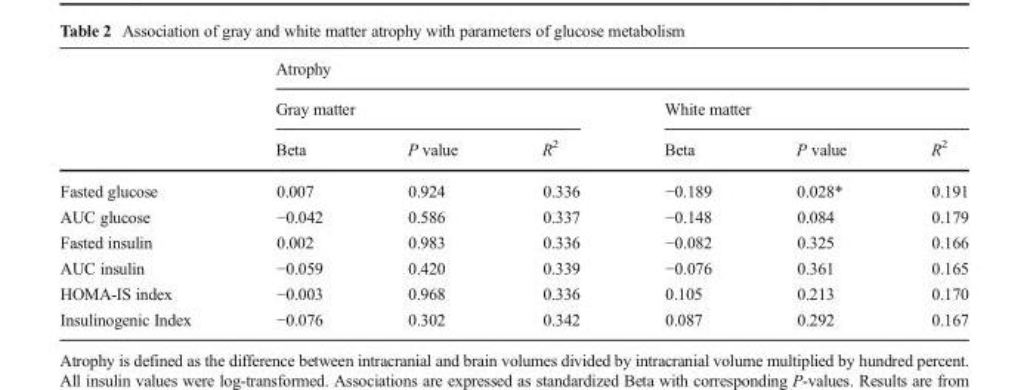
<table><thead><tr><td rowspan="3"></td><td colspan="6">Atrophy</td></tr><tr><td colspan="3">Gray matter</td><td colspan="3">White matter</td></tr><tr><td>Beta</td><td>P value</td><td>R<sup>2</sup></td><td>Beta</td><td>P value</td><td>R<sup>2</sup></td></tr></thead><tbody><tr><td>Fasted glucose</td><td>0.007</td><td>0.924</td><td>0.336</td><td>−0.189</td><td>0.028*</td><td>0.191</td></tr><tr><td>AUC glucose</td><td>−0.042</td><td>0.586</td><td>0.337</td><td>−0.148</td><td>0.084</td><td>0.179</td></tr><tr><td>Fasted insulin</td><td>0.002</td><td>0.983</td><td>0.336</td><td>−0.082</td><td>0.325</td><td>0.166</td></tr><tr><td>AUC insulin</td><td>−0.059</td><td>0.420</td><td>0.339</td><td>−0.076</td><td>0.361</td><td>0.165</td></tr><tr><td>HOMA-IS index</td><td>−0.003</td><td>0.968</td><td>0.336</td><td>0.105</td><td>0.213</td><td>0.170</td></tr><tr><td>Insulinogenic Index</td><td>−0.076</td><td>0.302</td><td>0.342</td><td>0.087</td><td>0.292</td><td>0.167</td></tr></tbody></table>